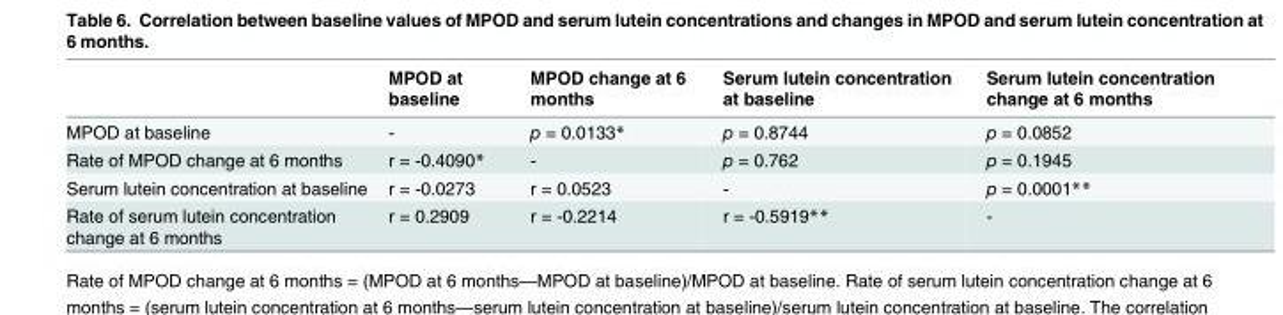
<table><thead><tr><td></td><td>MPOD at baseline</td><td>MPOD change at 6 months</td><td>Serum lutein concentration at baseline</td><td>Serum lutein concentration change at 6 months</td></tr></thead><tbody><tr><td>MPOD at baseline</td><td>-</td><td>p = 0.0133*</td><td>p = 0.8744</td><td>p = 0.0852</td></tr><tr><td>Rate of MPOD change at 6 months</td><td>r = -0.4090*</td><td>-</td><td>p = 0.762</td><td>p = 0.1945</td></tr><tr><td>Serum lutein concentration at baseline</td><td>r = -0.0273</td><td>r = 0.0523</td><td>-</td><td>p = 0.0001**</td></tr><tr><td>Rate of serum lutein concentration change at 6 months</td><td>r = 0.2909</td><td>r = -0.2214</td><td>r = -0.5919**</td><td>-</td></tr></tbody></table>